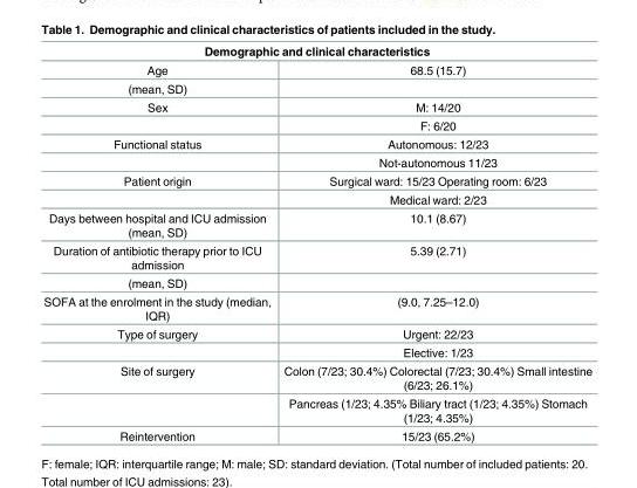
<table><thead><tr><td colspan="2">Demographic and clinical characteristics</td></tr><tr><td>Age</td><td>68.5 (15.7)</td></tr></thead><tbody><tr><td colspan="2">(mean, SD)</td></tr><tr><td rowspan="2">Sex</td><td>M: 14/20</td></tr><tr><td>F: 6/20</td></tr><tr><td rowspan="2">Functional status</td><td>Autonomous: 12/23</td></tr><tr><td>Not-autonomous 11/23</td></tr><tr><td rowspan="2">Patient origin</td><td>Surgical ward: 15/23 Operating room: 6/23</td></tr><tr><td>Medical ward: 2/23</td></tr><tr><td>Days between hospital and ICU admission (mean, SD)</td><td>10.1 (8.67)</td></tr><tr><td>Duration of antibiotic therapy prior to ICU admission</td><td>5.39 (2.71)</td></tr><tr><td colspan="2">(mean, SD)</td></tr><tr><td>SOFA at the enrolment in the study (median, IQR)</td><td>(9.0, 7.25–12.0)</td></tr><tr><td rowspan="2">Type of surgery</td><td>Urgent: 22/23</td></tr><tr><td>Elective: 1/23</td></tr><tr><td rowspan="2">Site of surgery</td><td>Colon (7/23; 30.4%) Colorectal (7/23; 30.4%) Small intestine (6/23; 26.1%)</td></tr><tr><td>Pancreas (1/23; 4.35% Biliary tract (1/23; 4.35%) Stomach (1/23; 4.35%)</td></tr><tr><td>Reintervention</td><td>15/23 (65.2%)</td></tr></tbody></table>